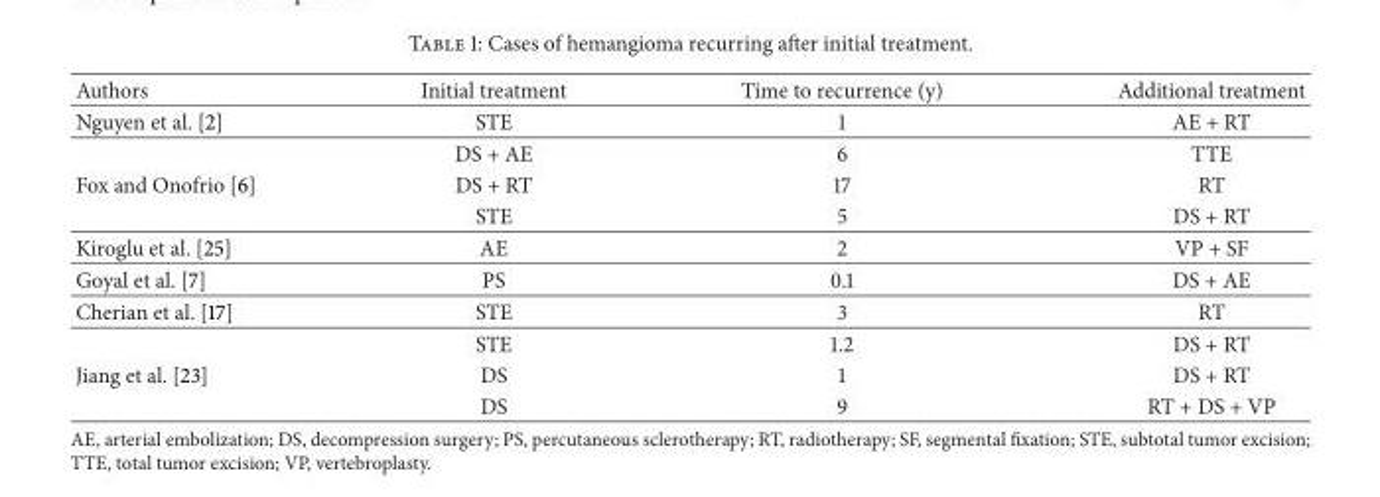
<table><thead><tr><td>Authors</td><td>Initial treatment</td><td>Time to recurrence (y)</td><td>Additional treatment</td></tr></thead><tbody><tr><td rowspan="2">Nguyen et al. [2]</td><td>STE</td><td>1</td><td>AE + RT</td></tr><tr><td>DS + AE</td><td>6</td><td>TTE</td></tr><tr><td rowspan="2">Fox and Onofrio [6]</td><td>DS + RT</td><td>17</td><td>RT</td></tr><tr><td>STE</td><td>5</td><td>DS + RT</td></tr><tr><td>Kiroglu et al. [25]</td><td>AE</td><td>2</td><td>VP + SF</td></tr><tr><td>Goyal et al. [7]</td><td>PS</td><td>0.1</td><td>DS + AE</td></tr><tr><td rowspan="2">Cherian et al. [17]</td><td>STE</td><td>3</td><td>RT</td></tr><tr><td>STE</td><td>1.2</td><td>DS + RT</td></tr><tr><td rowspan="2">Jiang et al. [23]</td><td>DS</td><td>1</td><td>DS + RT</td></tr><tr><td>DS</td><td>9</td><td>RT + DS + VP</td></tr></tbody></table>